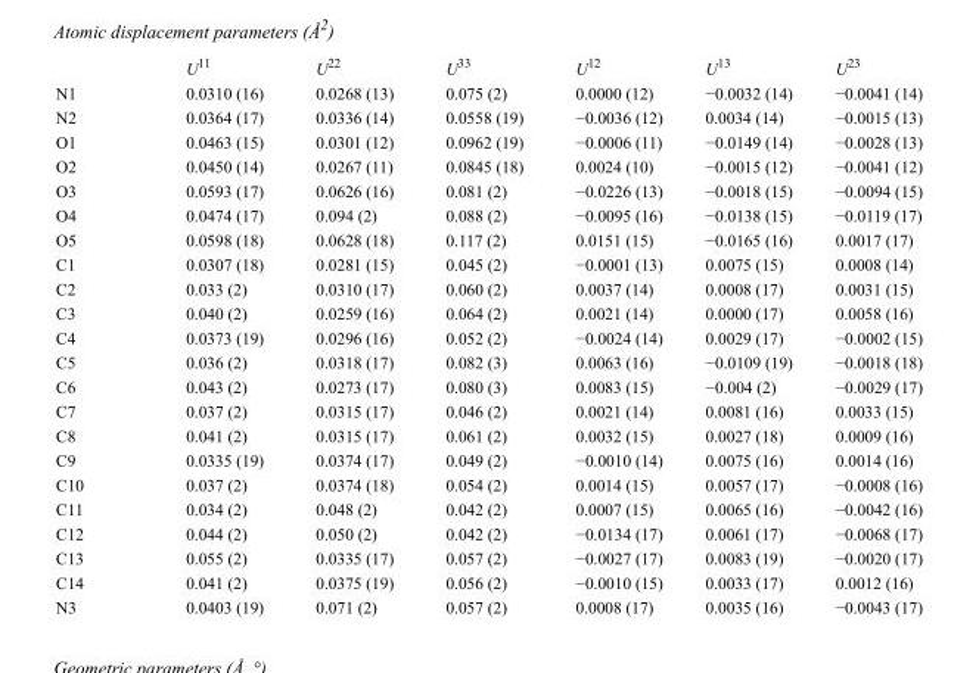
<table><thead><tr><td></td><td>U<sup>11</sup></td><td>U<sup>22</sup></td><td>U<sup>33</sup></td><td>U<sup>12</sup></td><td>U<sup>13</sup></td><td>U<sup>23</sup></td></tr></thead><tbody><tr><td>N1</td><td>0.0310 (16)</td><td>0.0268 (13)</td><td>0.075 (2)</td><td>0.0000 (12)</td><td>−0.0032 (14)</td><td>−0.0041 (14)</td></tr><tr><td>N2</td><td>0.0364 (17)</td><td>0.0336 (14)</td><td>0.0558 (19)</td><td>−0.0036 (12)</td><td>0.0034 (14)</td><td>−0.0015 (13)</td></tr><tr><td>O1</td><td>0.0463 (15)</td><td>0.0301 (12)</td><td>0.0962 (19)</td><td>−0.0006 (11)</td><td>−0.0149 (14)</td><td>−0.0028 (13)</td></tr><tr><td>O2</td><td>0.0450 (14)</td><td>0.0267 (11)</td><td>0.0845 (18)</td><td>0.0024 (10)</td><td>−0.0015 (12)</td><td>−0.0041 (12)</td></tr><tr><td>O3</td><td>0.0593 (17)</td><td>0.0626 (16)</td><td>0.081 (2)</td><td>−0.0226 (13)</td><td>−0.0018 (15)</td><td>−0.0094 (15)</td></tr><tr><td>O4</td><td>0.0474 (17)</td><td>0.094 (2)</td><td>0.088 (2)</td><td>−0.0095 (16)</td><td>−0.0138 (15)</td><td>−0.0119 (17)</td></tr><tr><td>O5</td><td>0.0598 (18)</td><td>0.0628 (18)</td><td>0.117 (2)</td><td>0.0151 (15)</td><td>−0.0165 (16)</td><td>0.0017 (17)</td></tr><tr><td>C1</td><td>0.0307 (18)</td><td>0.0281 (15)</td><td>0.045 (2)</td><td>−0.0001 (13)</td><td>0.0075 (15)</td><td>0.0008 (14)</td></tr><tr><td>C2</td><td>0.033 (2)</td><td>0.0310 (17)</td><td>0.060 (2)</td><td>0.0037 (14)</td><td>0.0008 (17)</td><td>0.0031 (15)</td></tr><tr><td>C3</td><td>0.040 (2)</td><td>0.0259 (16)</td><td>0.064 (2)</td><td>0.0021 (14)</td><td>0.0000 (17)</td><td>0.0058 (16)</td></tr><tr><td>C4</td><td>0.0373 (19)</td><td>0.0296 (16)</td><td>0.052 (2)</td><td>−0.0024 (14)</td><td>0.0029 (17)</td><td>−0.0002 (15)</td></tr><tr><td>C5</td><td>0.036 (2)</td><td>0.0318 (17)</td><td>0.082 (3)</td><td>0.0063 (16)</td><td>−0.0109 (19)</td><td>−0.0018 (18)</td></tr><tr><td>C6</td><td>0.043 (2)</td><td>0.0273 (17)</td><td>0.080 (3)</td><td>0.0083 (15)</td><td>−0.004 (2)</td><td>−0.0029 (17)</td></tr><tr><td>C7</td><td>0.037 (2)</td><td>0.0315 (17)</td><td>0.046 (2)</td><td>0.0021 (14)</td><td>0.0081 (16)</td><td>0.0033 (15)</td></tr><tr><td>C8</td><td>0.041 (2)</td><td>0.0315 (17)</td><td>0.061 (2)</td><td>0.0032 (15)</td><td>0.0027 (18)</td><td>0.0009 (16)</td></tr><tr><td>C9</td><td>0.0335 (19)</td><td>0.0374 (17)</td><td>0.049 (2)</td><td>−0.0010 (14)</td><td>0.0075 (16)</td><td>0.0014 (16)</td></tr><tr><td>C10</td><td>0.037 (2)</td><td>0.0374 (18)</td><td>0.054 (2)</td><td>0.0014 (15)</td><td>0.0057 (17)</td><td>−0.0008 (16)</td></tr><tr><td>C11</td><td>0.034 (2)</td><td>0.048 (2)</td><td>0.042 (2)</td><td>0.0007 (15)</td><td>0.0065 (16)</td><td>−0.0042 (16)</td></tr><tr><td>C12</td><td>0.044 (2)</td><td>0.050 (2)</td><td>0.042 (2)</td><td>−0.0134 (17)</td><td>0.0061 (17)</td><td>−0.0068 (17)</td></tr><tr><td>C13</td><td>0.055 (2)</td><td>0.0335 (17)</td><td>0.057 (2)</td><td>−0.0027 (17)</td><td>0.0083 (19)</td><td>−0.0020 (17)</td></tr><tr><td>C14</td><td>0.041 (2)</td><td>0.0375 (19)</td><td>0.056 (2)</td><td>−0.0010 (15)</td><td>0.0033 (17)</td><td>0.0012 (16)</td></tr><tr><td>N3</td><td>0.0403 (19)</td><td>0.071 (2)</td><td>0.057 (2)</td><td>0.0008 (17)</td><td>0.0035 (16)</td><td>−0.0043 (17)</td></tr></tbody></table>